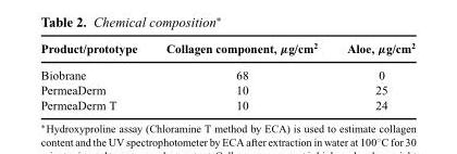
<table><thead><tr><td>Product/prototype</td><td>Collagen component, μg/cm<sup>2</sup></td><td>Aloe, μg/cm<sup>2</sup></td></tr></thead><tbody><tr><td>Biobrane</td><td>68</td><td>0</td></tr><tr><td>PermeaDerm</td><td>10</td><td>25</td></tr><tr><td>PermeaDerm T</td><td>10</td><td>24</td></tr></tbody></table>